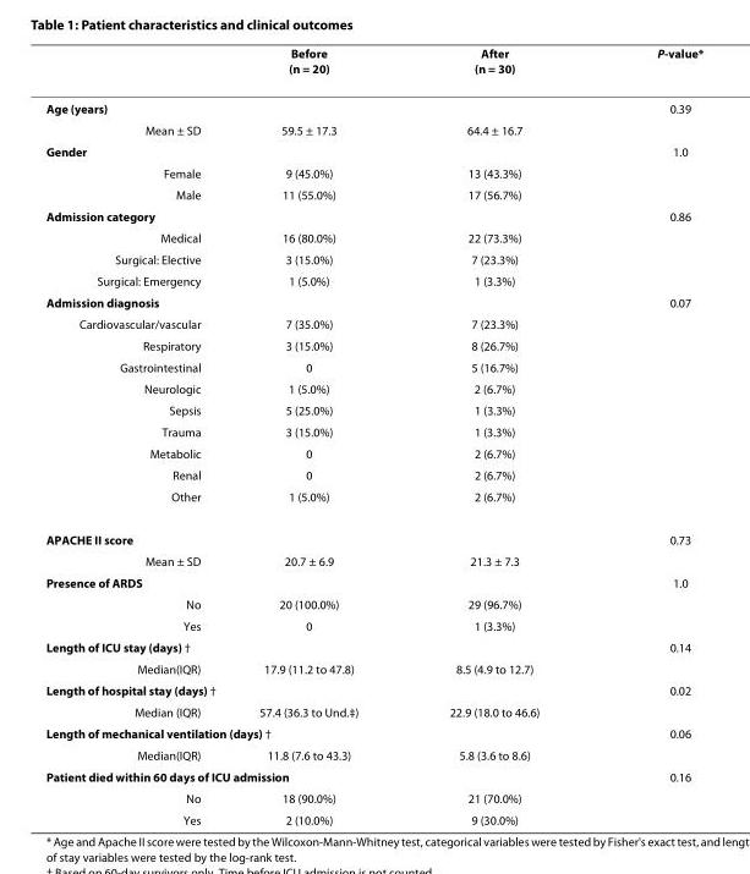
<table><thead><tr><td></td><td>Before (n = 20)</td><td>After (n = 30)</td><td>P-value*</td></tr></thead><tbody><tr><td colspan="3">Age (years)</td><td>0.39</td></tr><tr><td>Mean ± SD</td><td>59.5 ± 17.3</td><td>64.4 ± 16.7</td><td></td></tr><tr><td colspan="3">Gender</td><td>1.0</td></tr><tr><td>Female</td><td>9 (45.0%)</td><td>13 (43.3%)</td><td></td></tr><tr><td>Male</td><td>11 (55.0%)</td><td>17 (56.7%)</td><td></td></tr><tr><td colspan="3">Admission category</td><td>0.86</td></tr><tr><td>Medical</td><td>16 (80.0%)</td><td>22 (73.3%)</td><td></td></tr><tr><td>Surgical: Elective</td><td>3 (15.0%)</td><td>7 (23.3%)</td><td></td></tr><tr><td>Surgical: Emergency</td><td>1 (5.0%)</td><td>1 (3.3%)</td><td></td></tr><tr><td colspan="3">Admission diagnosis</td><td>0.07</td></tr><tr><td>Cardiovascular/vascular</td><td>7 (35.0%)</td><td>7 (23.3%)</td><td></td></tr><tr><td>Respiratory</td><td>3 (15.0%)</td><td>8 (26.7%)</td><td></td></tr><tr><td>Gastrointestinal</td><td>0</td><td>5 (16.7%)</td><td></td></tr><tr><td>Neurologic</td><td>1 (5.0%)</td><td>2 (6.7%)</td><td></td></tr><tr><td>Sepsis</td><td>5 (25.0%)</td><td>1 (3.3%)</td><td></td></tr><tr><td>Trauma</td><td>3 (15.0%)</td><td>1 (3.3%)</td><td></td></tr><tr><td>Metabolic</td><td>0</td><td>2 (6.7%)</td><td></td></tr><tr><td>Renal</td><td>0</td><td>2 (6.7%)</td><td></td></tr><tr><td>Other</td><td>1 (5.0%)</td><td>2 (6.7%)</td><td></td></tr><tr><td colspan="3">APACHE II score</td><td>0.73</td></tr><tr><td>Mean ± SD</td><td>20.7 ± 6.9</td><td>21.3 ± 7.3</td><td></td></tr><tr><td colspan="3">Presence of ARDS</td><td>1.0</td></tr><tr><td>No</td><td>20 (100.0%)</td><td>29 (96.7%)</td><td></td></tr><tr><td>Yes</td><td>0</td><td>1 (3.3%)</td><td></td></tr><tr><td colspan="3">Length of ICU stay (days) †</td><td>0.14</td></tr><tr><td>Median(IQR)</td><td>17.9 (11.2 to 47.8)</td><td>8.5 (4.9 to 12.7)</td><td></td></tr><tr><td colspan="3">Length of hospital stay (days) †</td><td>0.02</td></tr><tr><td>Median (IQR)</td><td>57.4 (36.3 to Und.‡)</td><td>22.9 (18.0 to 46.6)</td><td></td></tr><tr><td colspan="3">Length of mechanical ventilation (days) †</td><td>0.06</td></tr><tr><td>Median(IQR)</td><td>11.8 (7.6 to 43.3)</td><td>5.8 (3.6 to 8.6)</td><td></td></tr><tr><td colspan="3">Patient died within 60 days of ICU admission</td><td>0.16</td></tr><tr><td>No</td><td>18 (90.0%)</td><td>21 (70.0%)</td><td></td></tr><tr><td>Yes</td><td>2 (10.0%)</td><td>9 (30.0%)</td><td></td></tr></tbody></table>